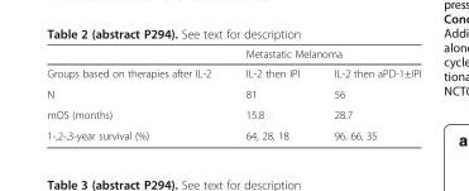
<table><thead><tr><td rowspan="2">Groups based on therapies after IL-2</td><td colspan="2">Metastatic Melanoma</td></tr><tr><td>IL-2 then IPI</td><td>IL-2 then aPD-1±IPI</td></tr></thead><tbody><tr><td>N</td><td>81</td><td>56</td></tr><tr><td>mOS (months)</td><td>15.8</td><td>28.7</td></tr><tr><td>1-,2-,3-year survival (%)</td><td>64, 28, 18</td><td>96, 66, 35</td></tr></tbody></table>